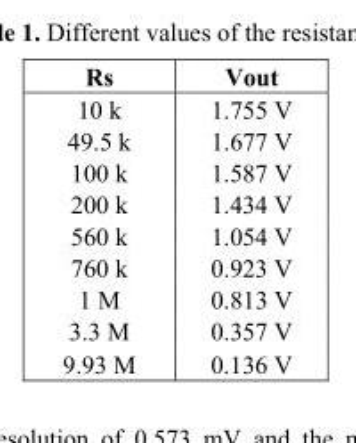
<table><thead><tr><td>Rs</td><td>Vout</td></tr></thead><tbody><tr><td>10 k</td><td>1.755 V</td></tr><tr><td>49.5 k</td><td>1.677 V</td></tr><tr><td>100 k</td><td>1.587 V</td></tr><tr><td>200 k</td><td>1.434 V</td></tr><tr><td>560 k</td><td>1.054 V</td></tr><tr><td>760 k</td><td>0.923 V</td></tr><tr><td>1 M</td><td>0.813 V</td></tr><tr><td>3.3 M</td><td>0.357 V</td></tr><tr><td>9.93 M</td><td>0.136 V</td></tr></tbody></table>